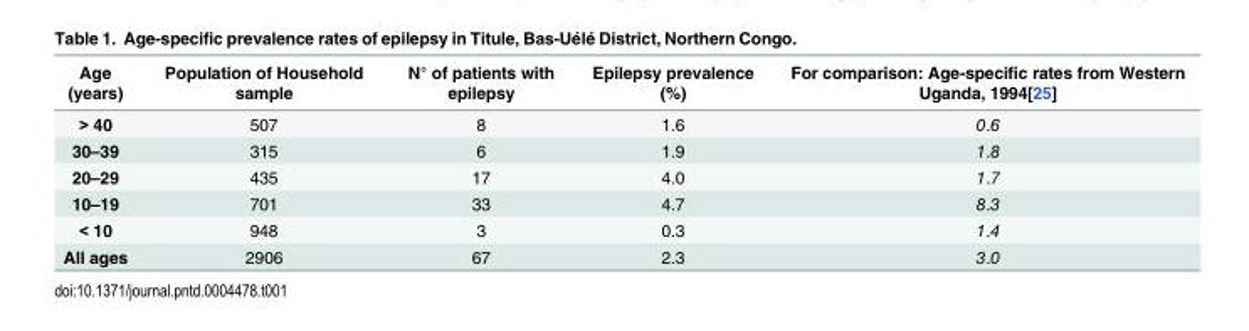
<table><thead><tr><td>Age (years)</td><td>Population of Household sample</td><td>N° of patients with epilepsy</td><td>Epilepsy prevalence (%)</td><td>For comparison: Age-specific rates from Western Uganda, 1994[25]</td></tr></thead><tbody><tr><td>&gt; 40</td><td>507</td><td>8</td><td>1.6</td><td>0.6</td></tr><tr><td>30–39</td><td>315</td><td>6</td><td>1.9</td><td>1.8</td></tr><tr><td>20–29</td><td>435</td><td>17</td><td>4.0</td><td>1.7</td></tr><tr><td>10–19</td><td>701</td><td>33</td><td>4.7</td><td>8.3</td></tr><tr><td>&lt; 10</td><td>948</td><td>3</td><td>0.3</td><td>1.4</td></tr><tr><td>All ages</td><td>2906</td><td>67</td><td>2.3</td><td>3.0</td></tr></tbody></table>